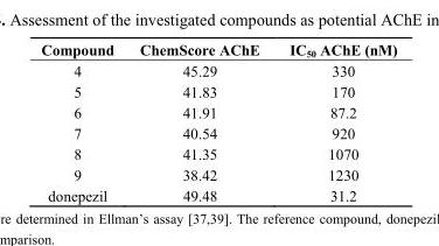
<table><thead><tr><td>Compound</td><td>ChemScore AChE</td><td>IC<sub>50</sub> AChE (nM)</td></tr></thead><tbody><tr><td>4</td><td>45.29</td><td>330</td></tr><tr><td>5</td><td>41.83</td><td>170</td></tr><tr><td>6</td><td>41.91</td><td>87.2</td></tr><tr><td>7</td><td>40.54</td><td>920</td></tr><tr><td>8</td><td>41.35</td><td>1070</td></tr><tr><td>9</td><td>38.42</td><td>1230</td></tr><tr><td>donepezil</td><td>49.48</td><td>31.2</td></tr></tbody></table>